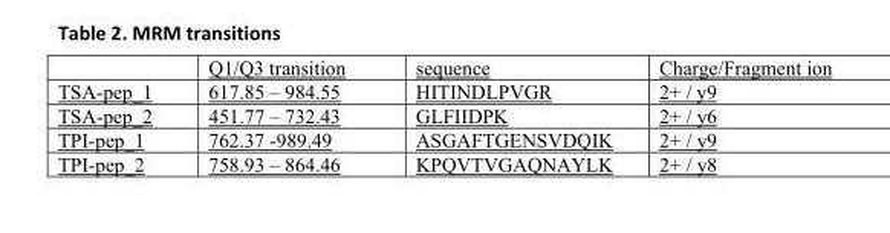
<table><thead><tr><td></td><td>Q1/Q3 transition</td><td>sequence</td><td>Charge/Fragment ion</td></tr></thead><tbody><tr><td>TSA-pep_1</td><td>617.85 – 984.55</td><td>HITINDLPVGR</td><td>2+ / y9</td></tr><tr><td>TSA-pep_2</td><td>451.77 – 732.43</td><td>GLFIIDPK</td><td>2+ / y6</td></tr><tr><td>TPI-pep_1</td><td>762.37 -989.49</td><td>ASGAFTGENSVDQIK</td><td>2+ / y9</td></tr><tr><td>TPI-pep_2</td><td>758.93 – 864.46</td><td>KPQVTVGAQNAYLK</td><td>2+ / y8</td></tr></tbody></table>